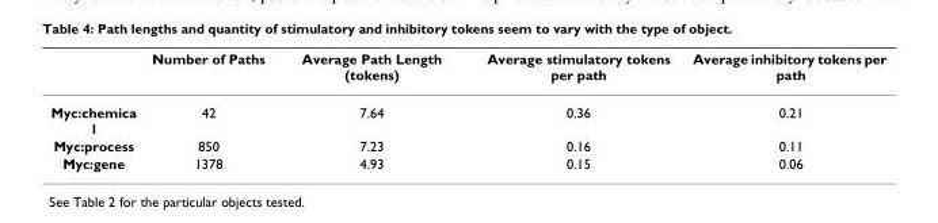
<table><thead><tr><td></td><td>Number of Paths</td><td>Average Path Length (tokens)</td><td>Average stimulatory tokens per path</td><td>Average inhibitory tokens per path</td></tr></thead><tbody><tr><td>Myc:chemica l</td><td>42</td><td>7.64</td><td>0.36</td><td>0.21</td></tr><tr><td>Myc:process</td><td>850</td><td>7.23</td><td>0.16</td><td>0.11</td></tr><tr><td>Myc:gene</td><td>1378</td><td>4.93</td><td>0.15</td><td>0.06</td></tr></tbody></table>